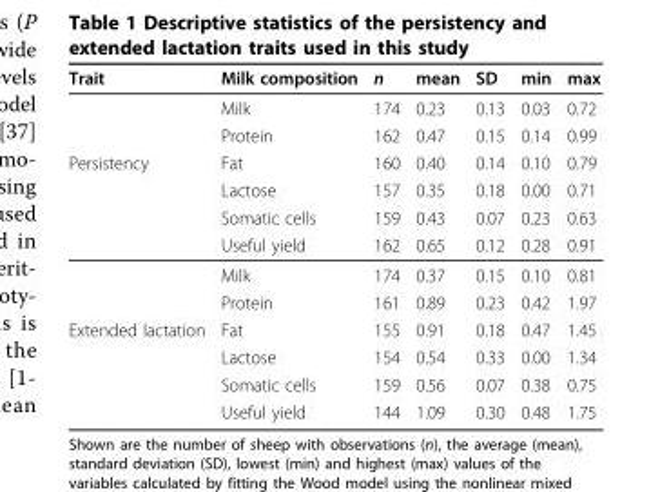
<table><thead><tr><td>Trait</td><td>Milk composition</td><td>n</td><td>mean</td><td>SD</td><td>min</td><td>max</td></tr></thead><tbody><tr><td></td><td>Milk</td><td>174</td><td>0.23</td><td>0.13</td><td>0.03</td><td>0.72</td></tr><tr><td></td><td>Protein</td><td>162</td><td>0.47</td><td>0.15</td><td>0.14</td><td>0.99</td></tr><tr><td rowspan="6">Persistency</td><td>Fat</td><td>160</td><td>0.40</td><td>0.14</td><td>0.10</td><td>0.79</td></tr><tr><td>Lactose</td><td>157</td><td>0.35</td><td>0.18</td><td>0.00</td><td>0.71</td></tr><tr><td>Somatic cells</td><td>159</td><td>0.43</td><td>0.07</td><td>0.23</td><td>0.63</td></tr><tr><td>Useful yield</td><td>162</td><td>0.65</td><td>0.12</td><td>0.28</td><td>0.91</td></tr><tr><td>Milk</td><td>174</td><td>0.37</td><td>0.15</td><td>0.10</td><td>0.81</td></tr><tr><td>Protein</td><td>161</td><td>0.89</td><td>0.23</td><td>0.42</td><td>1.97</td></tr><tr><td rowspan="4">Extended lactation</td><td>Fat</td><td>155</td><td>0.91</td><td>0.18</td><td>0.47</td><td>1.45</td></tr><tr><td>Lactose</td><td>154</td><td>0.54</td><td>0.33</td><td>0.00</td><td>1.34</td></tr><tr><td>Somatic cells</td><td>159</td><td>0.56</td><td>0.07</td><td>0.38</td><td>0.75</td></tr><tr><td>Useful yield</td><td>144</td><td>1.09</td><td>0.30</td><td>0.48</td><td>1.75</td></tr></tbody></table>